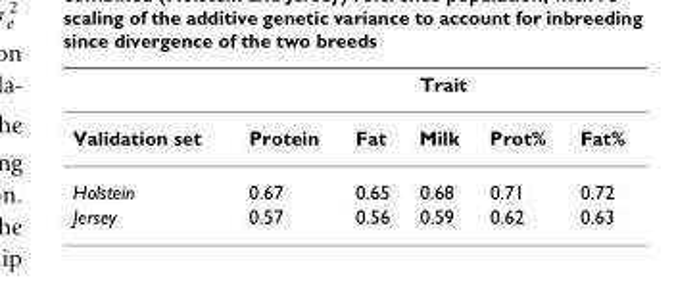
<table><thead><tr><td rowspan="2">Validation set</td><td colspan="5">Trait</td></tr><tr><td>Protein</td><td>Fat</td><td>Milk</td><td>Prot%</td><td>Fat%</td></tr></thead><tbody><tr><td>Holstein</td><td>0.67</td><td>0.65</td><td>0.68</td><td>0.71</td><td>0.72</td></tr><tr><td>Jersey</td><td>0.57</td><td>0.56</td><td>0.59</td><td>0.62</td><td>0.63</td></tr></tbody></table>